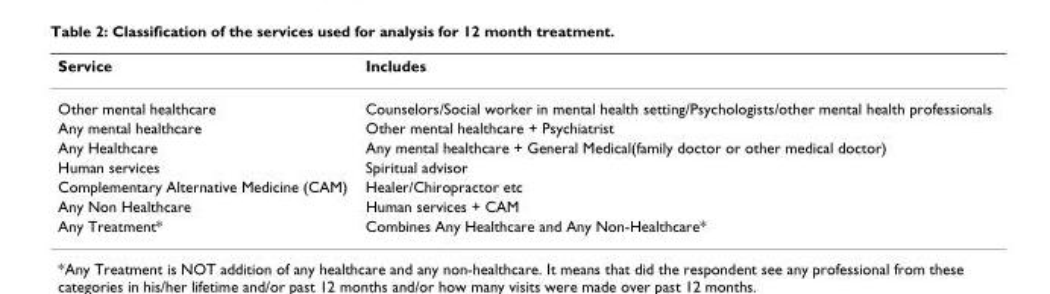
<table><thead><tr><td>Service</td><td>Includes</td></tr></thead><tbody><tr><td>Other mental healthcare</td><td>Counselors/Social worker in mental health setting/Psychologists/other mental health professionals</td></tr><tr><td>Any mental healthcare</td><td>Other mental healthcare + Psychiatrist</td></tr><tr><td>Any Healthcare</td><td>Any mental healthcare + General Medical(family doctor or other medical doctor)</td></tr><tr><td>Human services</td><td>Spiritual advisor</td></tr><tr><td>Complementary Alternative Medicine (CAM)</td><td>Healer/Chiropractor etc</td></tr><tr><td>Any Non Healthcare</td><td>Human services + CAM</td></tr><tr><td>Any Treatment*</td><td>Combines Any Healthcare and Any Non-Healthcare*</td></tr></tbody></table>